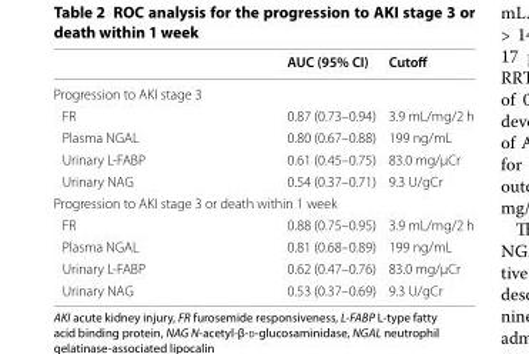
<table><thead><tr><td></td><td>AUC (95% CI)</td><td>Cutoff</td></tr></thead><tbody><tr><td colspan="3">Progression to AKI stage 3</td></tr><tr><td>FR</td><td>0.87 (0.73–0.94)</td><td>3.9 mL/mg/2 h</td></tr><tr><td>Plasma NGAL</td><td>0.80 (0.67–0.88)</td><td>199 ng/mL</td></tr><tr><td>Urinary L-FABP</td><td>0.61 (0.45–0.75)</td><td>83.0 mg/μCr</td></tr><tr><td>Urinary NAG</td><td>0.54 (0.37–0.71)</td><td>9.3 U/gCr</td></tr><tr><td colspan="3">Progression to AKI stage 3 or death within 1 week</td></tr><tr><td>FR</td><td>0.88 (0.75–0.95)</td><td>3.9 mL/mg/2 h</td></tr><tr><td>Plasma NGAL</td><td>0.81 (0.68–0.89)</td><td>199 ng/mL</td></tr><tr><td>Urinary L-FABP</td><td>0.62 (0.47–0.76)</td><td>83.0 mg/μCr</td></tr><tr><td>Urinary NAG</td><td>0.53 (0.37–0.69)</td><td>9.3 U/gCr</td></tr></tbody></table>